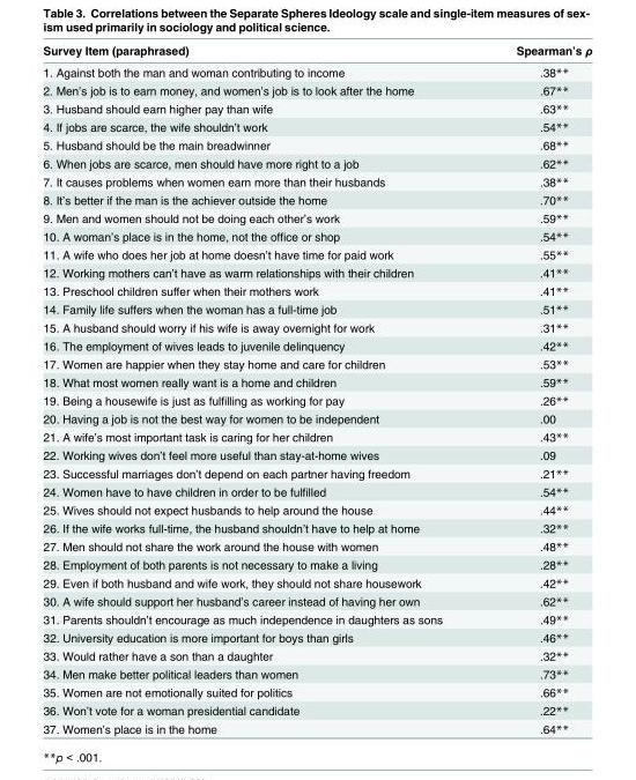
<table><thead><tr><td>Survey Item (paraphrased)</td><td>Spearman’s ρ</td></tr></thead><tbody><tr><td>1. Against both the man and woman contributing to income</td><td>.38**</td></tr><tr><td>2. Men’s job is to earn money, and women’s job is to look after the home</td><td>.67**</td></tr><tr><td>3. Husband should earn higher pay than wife</td><td>.63**</td></tr><tr><td>4. If jobs are scarce, the wife shouldn’t work</td><td>.54**</td></tr><tr><td>5. Husband should be the main breadwinner</td><td>.68**</td></tr><tr><td>6. When jobs are scarce, men should have more right to a job</td><td>.62**</td></tr><tr><td>7. It causes problems when women earn more than their husbands</td><td>.38**</td></tr><tr><td>8. It’s better if the man is the achiever outside the home</td><td>.70**</td></tr><tr><td>9. Men and women should not be doing each other’s work</td><td>.59**</td></tr><tr><td>10. A woman’s place is in the home, not the office or shop</td><td>.54**</td></tr><tr><td>11. A wife who does her job at home doesn’t have time for paid work</td><td>.55**</td></tr><tr><td>12. Working mothers can’t have as warm relationships with their children</td><td>.41**</td></tr><tr><td>13. Preschool children suffer when their mothers work</td><td>.41**</td></tr><tr><td>14. Family life suffers when the woman has a full-time job</td><td>.51**</td></tr><tr><td>15. A husband should worry if his wife is away overnight for work</td><td>.31**</td></tr><tr><td>16. The employment of wives leads to juvenile delinquency</td><td>.42**</td></tr><tr><td>17. Women are happier when they stay home and care for children</td><td>.53**</td></tr><tr><td>18. What most women really want is a home and children</td><td>.59**</td></tr><tr><td>19. Being a housewife is just as fulfilling as working for pay</td><td>.26**</td></tr><tr><td>20. Having a job is not the best way for women to be independent</td><td>.00</td></tr><tr><td>21. A wife’s most important task is caring for her children</td><td>.43**</td></tr><tr><td>22. Working wives don’t feel more useful than stay-at-home wives</td><td>.09</td></tr><tr><td>23. Successful marriages don’t depend on each partner having freedom</td><td>.21**</td></tr><tr><td>24. Women have to have children in order to be fulfilled</td><td>.54**</td></tr><tr><td>25. Wives should not expect husbands to help around the house</td><td>.44**</td></tr><tr><td>26. If the wife works full-time, the husband shouldn’t have to help at home</td><td>.32**</td></tr><tr><td>27. Men should not share the work around the house with women</td><td>.48**</td></tr><tr><td>28. Employment of both parents is not necessary to make a living</td><td>.28**</td></tr><tr><td>29. Even if both husband and wife work, they should not share housework</td><td>.42**</td></tr><tr><td>30. A wife should support her husband’s career instead of having her own</td><td>.62**</td></tr><tr><td>31. Parents shouldn’t encourage as much independence in daughters as sons</td><td>.49**</td></tr><tr><td>32. University education is more important for boys than girls</td><td>.46**</td></tr><tr><td>33. Would rather have a son than a daughter</td><td>.32**</td></tr><tr><td>34. Men make better political leaders than women</td><td>.73**</td></tr><tr><td>35. Women are not emotionally suited for politics</td><td>.66**</td></tr><tr><td>36. Won’t vote for a woman presidential candidate</td><td>.22**</td></tr><tr><td>37. Women’s place is in the home</td><td>.64**</td></tr></tbody></table>